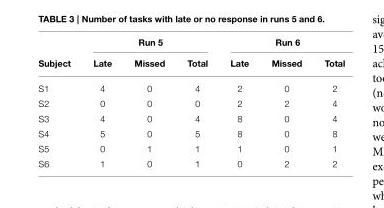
<table><thead><tr><td rowspan="2">Subject</td><td colspan="3">Run 5</td><td colspan="3">Run 6</td></tr><tr><td>Late</td><td>Missed</td><td>Total</td><td>Late</td><td>Missed</td><td>Total</td></tr></thead><tbody><tr><td>S1</td><td>4</td><td>0</td><td>4</td><td>2</td><td>0</td><td>2</td></tr><tr><td>S2</td><td>0</td><td>0</td><td>0</td><td>2</td><td>2</td><td>4</td></tr><tr><td>S3</td><td>4</td><td>0</td><td>4</td><td>8</td><td>0</td><td>4</td></tr><tr><td>S4</td><td>5</td><td>0</td><td>5</td><td>8</td><td>0</td><td>8</td></tr><tr><td>S5</td><td>0</td><td>1</td><td>1</td><td>1</td><td>0</td><td>1</td></tr><tr><td>S6</td><td>1</td><td>0</td><td>1</td><td>0</td><td>2</td><td>2</td></tr></tbody></table>